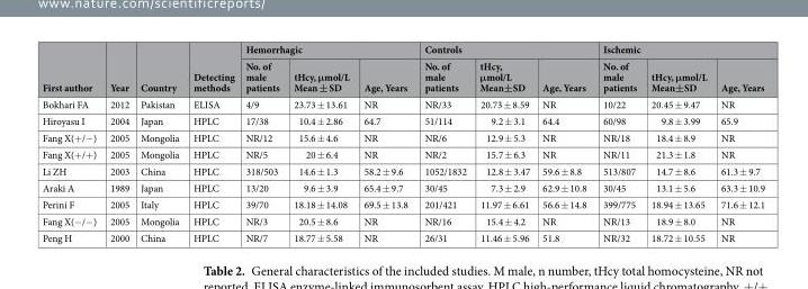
<table><thead><tr><td rowspan="2">First author</td><td rowspan="2">Year</td><td rowspan="2">Country</td><td rowspan="2">Detecting methods</td><td colspan="3">Hemorrhagic</td><td colspan="3">Controls</td><td colspan="3">Ischemic</td></tr><tr><td>No. of male patients</td><td>tHcy, μmol/L Mean ± SD</td><td>Age, Years</td><td>No. of male patients</td><td>tHcy, μmol/L Mean±SD</td><td>Age, Years</td><td>No. of male patients</td><td>tHcy, μmol/L Mean±SD</td><td>Age, Years</td></tr></thead><tbody><tr><td>Bokhari FA</td><td>2012</td><td>Pakistan</td><td>ELISA</td><td>4/9</td><td>23.73 ± 13.61</td><td>NR</td><td>NR/33</td><td>20.73 ± 8.59</td><td>NR</td><td>10/22</td><td>20.45 ± 9.47</td><td>NR</td></tr><tr><td>Hiroyasu I</td><td>2004</td><td>Japan</td><td>HPLC</td><td>17/38</td><td>10.4 ± 2.86</td><td>64.7</td><td>51/114</td><td>9.2 ± 3.1</td><td>64.4</td><td>60/98</td><td>9.8 ± 3.99</td><td>65.9</td></tr><tr><td>Fang X(+/−)</td><td>2005</td><td>Mongolia</td><td>HPLC</td><td>NR/12</td><td>15.6 ± 4.6</td><td>NR</td><td>NR/6</td><td>12.9 ± 5.3</td><td>NR</td><td>NR/18</td><td>18.4 ± 8.9</td><td>NR</td></tr><tr><td>Fang X(+/+)</td><td>2005</td><td>Mongolia</td><td>HPLC</td><td>NR/5</td><td>20 ± 6.4</td><td>NR</td><td>NR/2</td><td>15.7 ± 6.3</td><td>NR</td><td>NR/11</td><td>21.3 ± 1.8</td><td>NR</td></tr><tr><td>Li ZH</td><td>2003</td><td>China</td><td>HPLC</td><td>318/503</td><td>14.6 ± 1.3</td><td>58.2 ± 9.6</td><td>1052/1832</td><td>12.8 ± 3.47</td><td>59.6 ± 8.8</td><td>513/807</td><td>14.7 ± 8.6</td><td>61.3 ± 9.7</td></tr><tr><td>Araki A</td><td>1989</td><td>Japan</td><td>HPLC</td><td>13/20</td><td>9.6 ± 3.9</td><td>65.4 ± 9.7</td><td>30/45</td><td>7.3 ± 2.9</td><td>62.9 ± 10.8</td><td>30/45</td><td>13.1 ± 5.6</td><td>63.3 ± 10.9</td></tr><tr><td>Perini F</td><td>2005</td><td>Italy</td><td>HPLC</td><td>39/70</td><td>18.18 ± 14.08</td><td>69.5 ± 13.8</td><td>201/421</td><td>11.97 ± 6.61</td><td>56.6 ± 14.8</td><td>399/775</td><td>18.94 ± 13.65</td><td>71.6 ± 12.1</td></tr><tr><td>Fang X(−/−)</td><td>2005</td><td>Mongolia</td><td>HPLC</td><td>NR/3</td><td>20.5 ± 8.6</td><td>NR</td><td>NR/16</td><td>15.4 ± 4.2</td><td>NR</td><td>NR/13</td><td>18.9 ± 8.0</td><td>NR</td></tr><tr><td>Peng H</td><td>2000</td><td>China</td><td>HPLC</td><td>NR/7</td><td>18.77 ± 5.58</td><td>NR</td><td>26/31</td><td>11.46 ± 5.96</td><td>51.8</td><td>NR/32</td><td>18.72 ± 10.55</td><td>NR</td></tr></tbody></table>